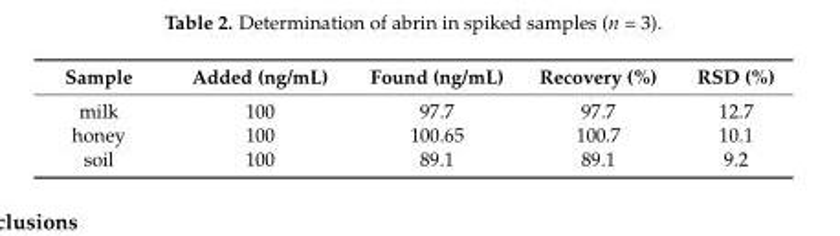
<table><thead><tr><td>Sample</td><td>Added (ng/mL)</td><td>Found (ng/mL)</td><td>Recovery (%)</td><td>RSD (%)</td></tr></thead><tbody><tr><td>milk</td><td>100</td><td>97.7</td><td>97.7</td><td>12.7</td></tr><tr><td>honey</td><td>100</td><td>100.65</td><td>100.7</td><td>10.1</td></tr><tr><td>soil</td><td>100</td><td>89.1</td><td>89.1</td><td>9.2</td></tr></tbody></table>